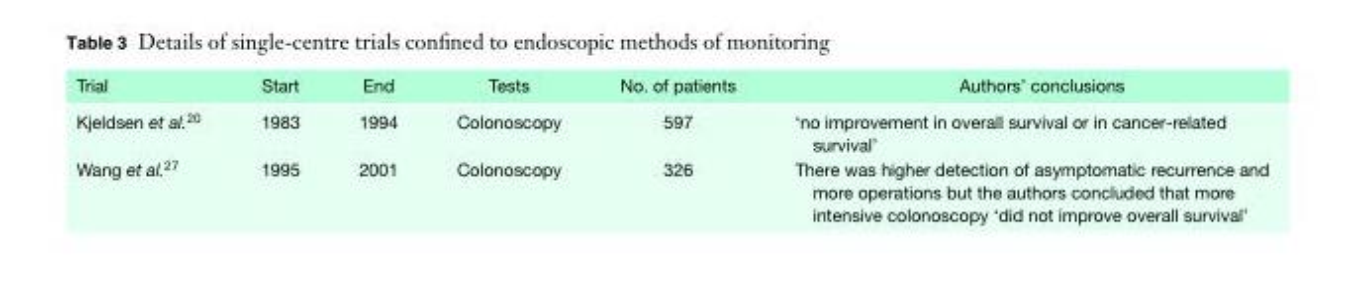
<table><thead><tr><td>Trial</td><td>Start</td><td>End</td><td>Tests</td><td>No. of patients</td><td>Authors’ conclusions</td></tr></thead><tbody><tr><td>Kjeldsen et al.<sup>20</sup></td><td>1983</td><td>1994</td><td>Colonoscopy</td><td>597</td><td>‘no improvement in overall survival or in cancer-related survival’</td></tr><tr><td>Wang et al.<sup>27</sup></td><td>1995</td><td>2001</td><td>Colonoscopy</td><td>326</td><td>There was higher detection of asymptomatic recurrence and more operations but the authors concluded that more intensive colonoscopy ‘did not improve overall survival’</td></tr></tbody></table>